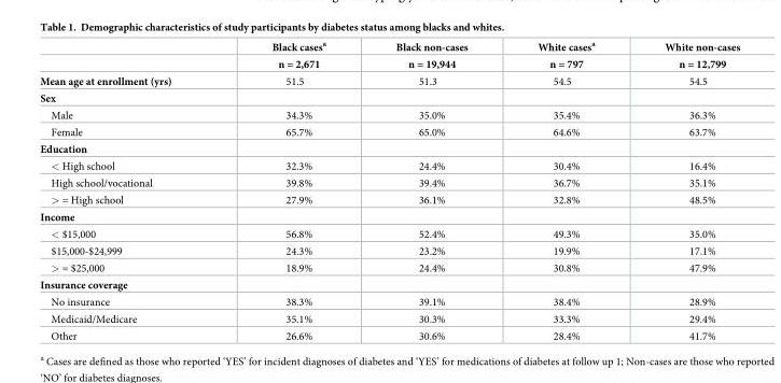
<table><thead><tr><td rowspan="2"></td><td rowspan="2">Black cases<sup>a</sup> n = 2,671</td><td rowspan="2">Black non-cases n = 19,944</td><td rowspan="2">White cases<sup>a</sup> n = 797</td><td rowspan="2">White non-cases n = 12,799</td></tr><tr></tr></thead><tbody><tr><td>Mean age at enrollment (yrs)</td><td>51.5</td><td>51.3</td><td>54.5</td><td>54.5</td></tr><tr><td colspan="5">Sex</td></tr><tr><td>Male</td><td>34.3%</td><td>35.0%</td><td>35.4%</td><td>36.3%</td></tr><tr><td>Female</td><td>65.7%</td><td>65.0%</td><td>64.6%</td><td>63.7%</td></tr><tr><td colspan="5">Education</td></tr><tr><td>&lt; High school</td><td>32.3%</td><td>24.4%</td><td>30.4%</td><td>16.4%</td></tr><tr><td>High school/vocational</td><td>39.8%</td><td>39.4%</td><td>36.7%</td><td>35.1%</td></tr><tr><td>&gt; = High school</td><td>27.9%</td><td>36.1%</td><td>32.8%</td><td>48.5%</td></tr><tr><td colspan="5">Income</td></tr><tr><td>&lt; $15,000</td><td>56.8%</td><td>52.4%</td><td>49.3%</td><td>35.0%</td></tr><tr><td>$15,000-$24,999</td><td>24.3%</td><td>23.2%</td><td>19.9%</td><td>17.1%</td></tr><tr><td>&gt; = $25,000</td><td>18.9%</td><td>24.4%</td><td>30.8%</td><td>47.9%</td></tr><tr><td colspan="5">Insurance coverage</td></tr><tr><td>No insurance</td><td>38.3%</td><td>39.1%</td><td>38.4%</td><td>28.9%</td></tr><tr><td>Medicaid/Medicare</td><td>35.1%</td><td>30.3%</td><td>33.3%</td><td>29.4%</td></tr><tr><td>Other</td><td>26.6%</td><td>30.6%</td><td>28.4%</td><td>41.7%</td></tr></tbody></table>